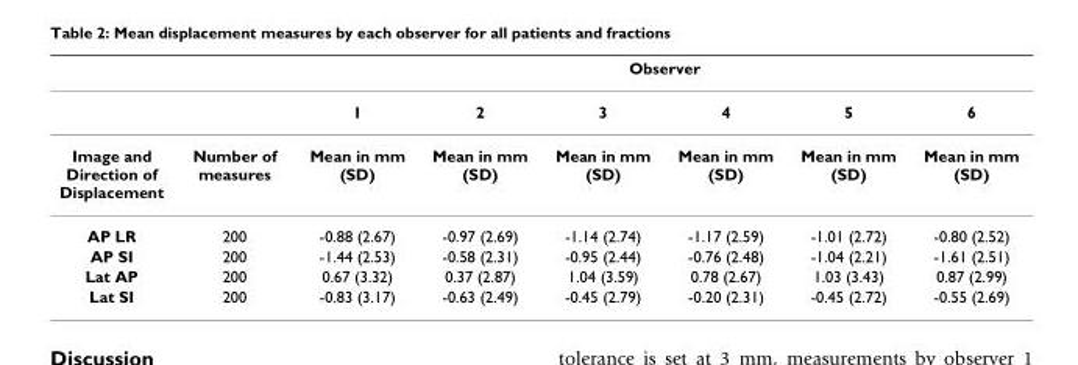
<table><thead><tr><td rowspan="2"></td><td rowspan="2"></td><td colspan="6">Observer</td></tr><tr><td>1</td><td>2</td><td>3</td><td>4</td><td>5</td><td>6</td></tr></thead><tbody><tr><td>Image and Direction of Displacement</td><td>Number of measures</td><td>Mean in mm (SD)</td><td>Mean in mm (SD)</td><td>Mean in mm (SD)</td><td>Mean in mm (SD)</td><td>Mean in mm (SD)</td><td>Mean in mm (SD)</td></tr><tr><td>AP LR</td><td>200</td><td>-0.88 (2.67)</td><td>-0.97 (2.69)</td><td>-1.14 (2.74)</td><td>-1.17 (2.59)</td><td>-1.01 (2.72)</td><td>-0.80 (2.52)</td></tr><tr><td>AP SI</td><td>200</td><td>-1.44 (2.53)</td><td>-0.58 (2.31)</td><td>-0.95 (2.44)</td><td>-0.76 (2.48)</td><td>-1.04 (2.21)</td><td>-1.61 (2.51)</td></tr><tr><td>Lat AP</td><td>200</td><td>0.67 (3.32)</td><td>0.37 (2.87)</td><td>1.04 (3.59)</td><td>0.78 (2.67)</td><td>1.03 (3.43)</td><td>0.87 (2.99)</td></tr><tr><td>Lat SI</td><td>200</td><td>-0.83 (3.17)</td><td>-0.63 (2.49)</td><td>-0.45 (2.79)</td><td>-0.20 (2.31)</td><td>-0.45 (2.72)</td><td>-0.55 (2.69)</td></tr></tbody></table>